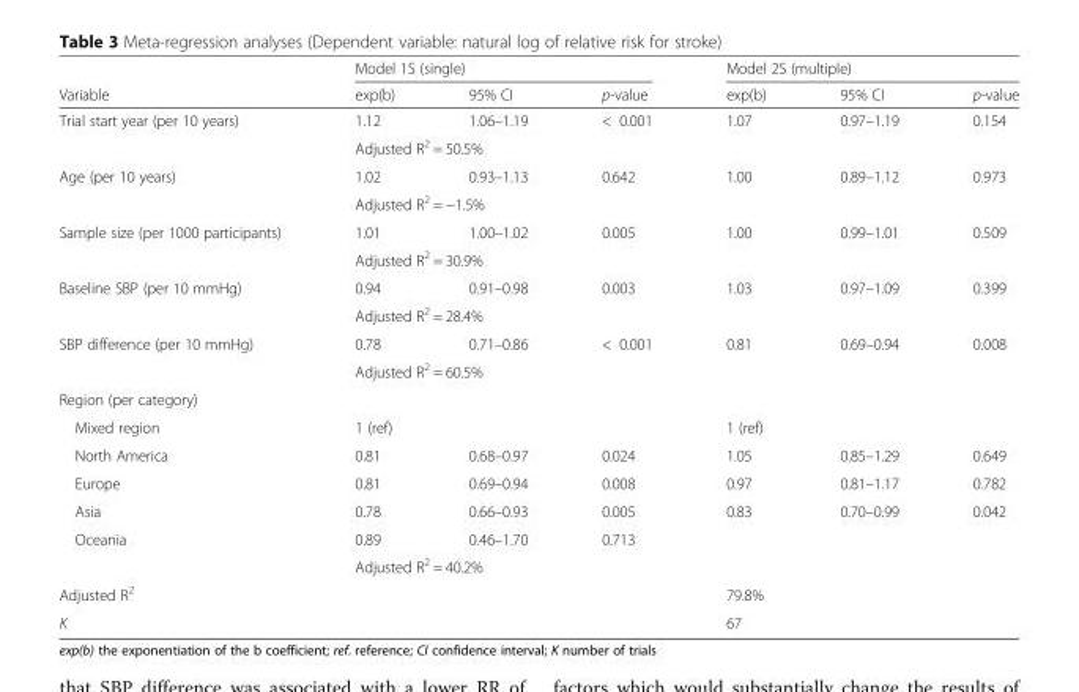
<table><thead><tr><td rowspan="2">Variable</td><td colspan="3">Model 1S (single)</td><td colspan="3">Model 2S (multiple)</td></tr><tr><td>exp(b)</td><td>95% CI</td><td>p-value</td><td>exp(b)</td><td>95% CI</td><td>p-value</td></tr></thead><tbody><tr><td rowspan="2">Trial start year (per 10 years)</td><td>1.12</td><td>1.06–1.19</td><td>&lt; 0.001</td><td>1.07</td><td>0.97–1.19</td><td>0.154</td></tr><tr><td colspan="3">Adjusted R<sup>2</sup> = 50.5%</td><td></td><td></td><td></td></tr><tr><td rowspan="2">Age (per 10 years)</td><td>1.02</td><td>0.93–1.13</td><td>0.642</td><td>1.00</td><td>0.89–1.12</td><td>0.973</td></tr><tr><td colspan="3">Adjusted R<sup>2</sup> = −1.5%</td><td></td><td></td><td></td></tr><tr><td rowspan="2">Sample size (per 1000 participants)</td><td>1.01</td><td>1.00–1.02</td><td>0.005</td><td>1.00</td><td>0.99–1.01</td><td>0.509</td></tr><tr><td colspan="3">Adjusted R<sup>2</sup> = 30.9%</td><td></td><td></td><td></td></tr><tr><td rowspan="2">Baseline SBP (per 10 mmHg)</td><td>0.94</td><td>0.91–0.98</td><td>0.003</td><td>1.03</td><td>0.97–1.09</td><td>0.399</td></tr><tr><td colspan="3">Adjusted R<sup>2</sup> = 28.4%</td><td></td><td></td><td></td></tr><tr><td rowspan="2">SBP difference (per 10 mmHg)</td><td>0.78</td><td>0.71–0.86</td><td>&lt; 0.001</td><td>0.81</td><td>0.69–0.94</td><td>0.008</td></tr><tr><td colspan="3">Adjusted R<sup>2</sup> = 60.5%</td><td></td><td></td><td></td></tr><tr><td colspan="7">Region (per category)</td></tr><tr><td>Mixed region</td><td>1 (ref)</td><td></td><td></td><td>1 (ref)</td><td></td><td></td></tr><tr><td>North America</td><td>0.81</td><td>0.68–0.97</td><td>0.024</td><td>1.05</td><td>0.85–1.29</td><td>0.649</td></tr><tr><td>Europe</td><td>0.81</td><td>0.69–0.94</td><td>0.008</td><td>0.97</td><td>0.81–1.17</td><td>0.782</td></tr><tr><td>Asia</td><td>0.78</td><td>0.66–0.93</td><td>0.005</td><td>0.83</td><td>0.70–0.99</td><td>0.042</td></tr><tr><td rowspan="2">Oceania</td><td>0.89</td><td>0.46–1.70</td><td>0.713</td><td></td><td></td><td></td></tr><tr><td colspan="3">Adjusted R<sup>2</sup> = 40.2%</td><td></td><td></td><td></td></tr><tr><td>Adjusted R<sup>2</sup></td><td colspan="3"></td><td colspan="3">79.8%</td></tr><tr><td>K</td><td colspan="3"></td><td colspan="3">67</td></tr></tbody></table>